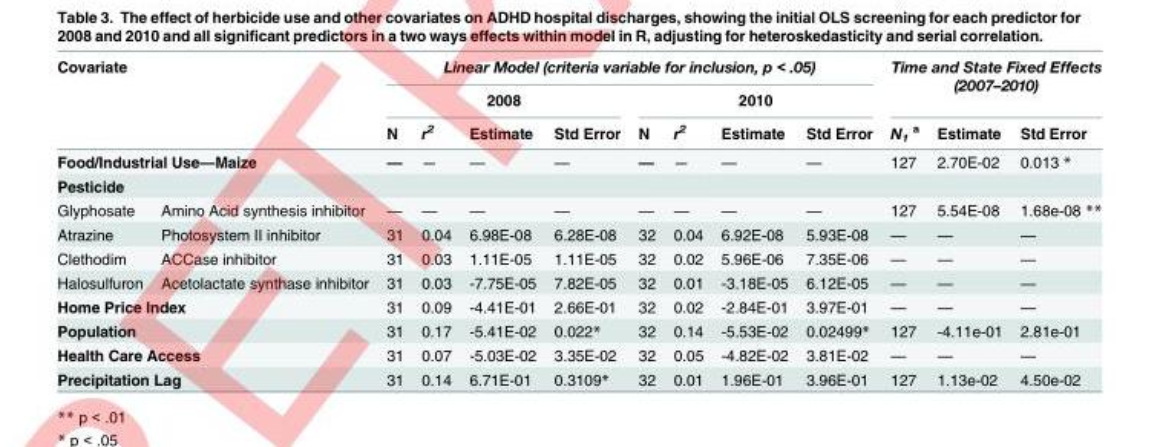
<table><thead><tr><td rowspan="5" colspan="2">Covariate Food/Industrial Use—Maize Pesticide</td><td colspan="8">Linear Model (criteria variable for inclusion, p &lt; .05)</td><td rowspan="2" colspan="3">Time and State Fixed Effects (2007–2010)</td></tr><tr><td colspan="4">2008</td><td colspan="4">2010</td></tr><tr><td rowspan="4">N — —</td><td rowspan="4">r2 — —</td><td rowspan="4">Estimate — —</td><td rowspan="4">Std Error — —</td><td rowspan="4">N — —</td><td rowspan="4">r2 — —</td><td rowspan="4">Estimate — —</td><td rowspan="4">Std Error — —</td><td rowspan="4">N1 a 127 127</td><td rowspan="4">Estimate 2.70E-02 5.54E-08</td><td rowspan="4">Std Error 0.013 * 1.68e-08 **</td></tr><tr></tr><tr></tr><tr><td>Glyphosate</td><td>Amino Acid synthesis inhibitor</td></tr></thead><tbody><tr><td>Atrazine</td><td>Photosystem II inhibitor</td><td>31</td><td>0.04</td><td>6.98E-08</td><td>6.28E-08</td><td>32</td><td>0.04</td><td>6.92E-08</td><td>5.93E-08</td><td>—</td><td>—</td><td>—</td></tr><tr><td>Clethodim</td><td>ACCase inhibitor</td><td>31</td><td>0.03</td><td>1.11E-05</td><td>1.11E-05</td><td>32</td><td>0.02</td><td>5.96E-06</td><td>7.35E-06</td><td>—</td><td>—</td><td>—</td></tr><tr><td>Halosulfuron</td><td>Acetolactate synthase inhibitor</td><td>31</td><td>0.03</td><td>-7.75E-05</td><td>7.82E-05</td><td>32</td><td>0.01</td><td>-3.18E-05</td><td>6.12E-05</td><td>—</td><td>—</td><td>—</td></tr><tr><td colspan="2">Home Price Index</td><td>31</td><td>0.09</td><td>-4.41E-01</td><td>2.66E-01</td><td>32</td><td>0.02</td><td>-2.84E-01</td><td>3.97E-01</td><td>—</td><td>—</td><td>—</td></tr><tr><td colspan="2">Population</td><td>31</td><td>0.17</td><td>-5.41E-02</td><td>0.022*</td><td>32</td><td>0.14</td><td>-5.53E-02</td><td>0.02499*</td><td>127</td><td>-4.11e-01</td><td>2.81e-01</td></tr><tr><td colspan="2">Health Care Access</td><td>31</td><td>0.07</td><td>-5.03E-02</td><td>3.35E-02</td><td>32</td><td>0.05</td><td>-4.82E-02</td><td>3.81E-02</td><td>—</td><td>—</td><td>—</td></tr><tr><td colspan="2">Precipitation Lag</td><td>31</td><td>0.14</td><td>6.71E-01</td><td>0.3109*</td><td>32</td><td>0.01</td><td>1.96E-01</td><td>3.96E-01</td><td>127</td><td>1.13e-02</td><td>4.50e-02</td></tr></tbody></table>